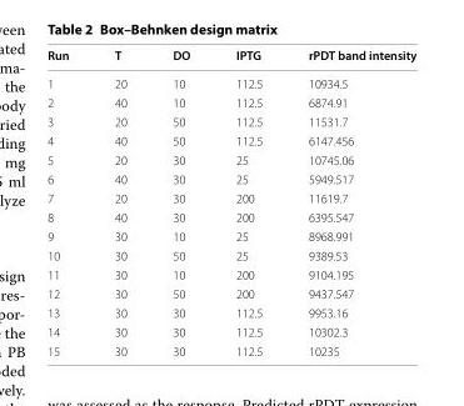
<table><thead><tr><td>Run</td><td>T</td><td>DO</td><td>IPTG</td><td>rPDT band intensity</td></tr></thead><tbody><tr><td>1</td><td>20</td><td>10</td><td>112.5</td><td>10934.5</td></tr><tr><td>2</td><td>40</td><td>10</td><td>112.5</td><td>6874.91</td></tr><tr><td>3</td><td>20</td><td>50</td><td>112.5</td><td>11531.7</td></tr><tr><td>4</td><td>40</td><td>50</td><td>112.5</td><td>6147.456</td></tr><tr><td>5</td><td>20</td><td>30</td><td>25</td><td>10745.06</td></tr><tr><td>6</td><td>40</td><td>30</td><td>25</td><td>5949.517</td></tr><tr><td>7</td><td>20</td><td>30</td><td>200</td><td>11619.7</td></tr><tr><td>8</td><td>40</td><td>30</td><td>200</td><td>6395.547</td></tr><tr><td>9</td><td>30</td><td>10</td><td>25</td><td>8968.991</td></tr><tr><td>10</td><td>30</td><td>50</td><td>25</td><td>9389.53</td></tr><tr><td>11</td><td>30</td><td>10</td><td>200</td><td>9104.195</td></tr><tr><td>12</td><td>30</td><td>50</td><td>200</td><td>9437.547</td></tr><tr><td>13</td><td>30</td><td>30</td><td>112.5</td><td>9953.16</td></tr><tr><td>14</td><td>30</td><td>30</td><td>112.5</td><td>10302.3</td></tr><tr><td>15</td><td>30</td><td>30</td><td>112.5</td><td>10235</td></tr></tbody></table>